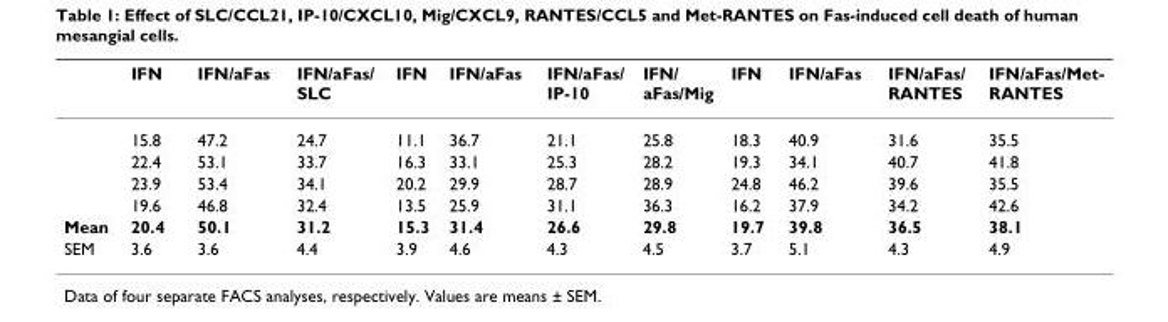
<table><thead><tr><td></td><td>IFN</td><td>IFN/aFas</td><td>IFN/aFas/ SLC</td><td>IFN</td><td>IFN/aFas</td><td>IFN/aFas/ IP-10</td><td>IFN/ aFas/Mig</td><td>IFN</td><td>IFN/aFas</td><td>IFN/aFas/ RANTES</td><td>IFN/aFas/Met- RANTES</td></tr></thead><tbody><tr><td></td><td>15.8</td><td>47.2</td><td>24.7</td><td>11.1</td><td>36.7</td><td>21.1</td><td>25.8</td><td>18.3</td><td>40.9</td><td>31.6</td><td>35.5</td></tr><tr><td></td><td>22.4</td><td>53.1</td><td>33.7</td><td>16.3</td><td>33.1</td><td>25.3</td><td>28.2</td><td>19.3</td><td>34.1</td><td>40.7</td><td>41.8</td></tr><tr><td></td><td>23.9</td><td>53.4</td><td>34.1</td><td>20.2</td><td>29.9</td><td>28.7</td><td>28.9</td><td>24.8</td><td>46.2</td><td>39.6</td><td>35.5</td></tr><tr><td></td><td>19.6</td><td>46.8</td><td>32.4</td><td>13.5</td><td>25.9</td><td>31.1</td><td>36.3</td><td>16.2</td><td>37.9</td><td>34.2</td><td>42.6</td></tr><tr><td>Mean</td><td>20.4</td><td>50.1</td><td>31.2</td><td>15.3</td><td>31.4</td><td>26.6</td><td>29.8</td><td>19.7</td><td>39.8</td><td>36.5</td><td>38.1</td></tr><tr><td>SEM</td><td>3.6</td><td>3.6</td><td>4.4</td><td>3.9</td><td>4.6</td><td>4.3</td><td>4.5</td><td>3.7</td><td>5.1</td><td>4.3</td><td>4.9</td></tr></tbody></table>